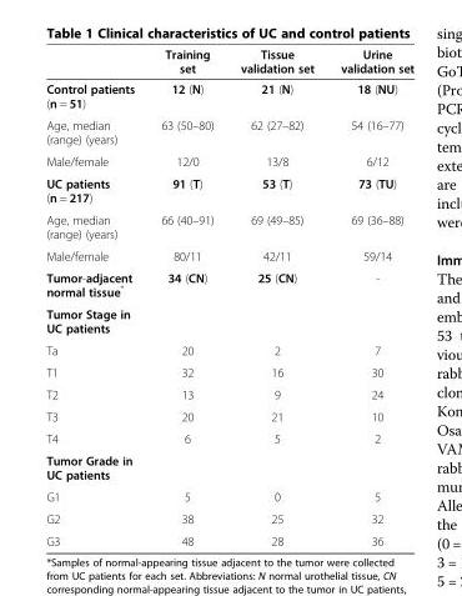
<table><thead><tr><td></td><td>Training set</td><td>Tissue validation set</td><td>Urine validation set</td></tr></thead><tbody><tr><td>Control patients (n = 51)</td><td>12 (N)</td><td>21 (N)</td><td>18 (NU)</td></tr><tr><td>Age, median (range) (years)</td><td>63 (50–80)</td><td>62 (27–82)</td><td>54 (16–77)</td></tr><tr><td>Male/female</td><td>12/0</td><td>13/8</td><td>6/12</td></tr><tr><td>UC patients (n = 217)</td><td>91 (T)</td><td>53 (T)</td><td>73 (TU)</td></tr><tr><td>Age, median (range) (years)</td><td>66 (40–91)</td><td>69 (49–85)</td><td>69 (36–88)</td></tr><tr><td>Male/female</td><td>80/11</td><td>42/11</td><td>59/14</td></tr><tr><td>Tumor-adjacent normal tissue*</td><td>34 (CN)</td><td>25 (CN)</td><td>-</td></tr><tr><td colspan="4">Tumor Stage in UC patients</td></tr><tr><td>Ta</td><td>20</td><td>2</td><td>7</td></tr><tr><td>T1</td><td>32</td><td>16</td><td>30</td></tr><tr><td>T2</td><td>13</td><td>9</td><td>24</td></tr><tr><td>T3</td><td>20</td><td>21</td><td>10</td></tr><tr><td>T4</td><td>6</td><td>5</td><td>2</td></tr><tr><td colspan="4">Tumor Grade in UC patients</td></tr><tr><td>G1</td><td>5</td><td>0</td><td>5</td></tr><tr><td>G2</td><td>38</td><td>25</td><td>32</td></tr><tr><td>G3</td><td>48</td><td>28</td><td>36</td></tr></tbody></table>